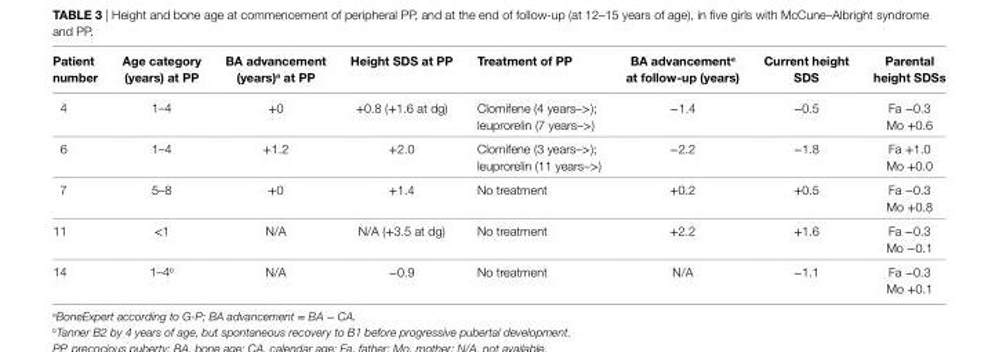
<table><thead><tr><td>Patient number</td><td>age category (years) at PP</td><td>Ba advancement (years)<sup>a</sup> at PP</td><td>height sDs at PP</td><td>Treatment of PP</td><td>Ba advancement<sup>a</sup> at follow-up (years)</td><td>current height sDs</td><td>Parental height sDss</td></tr></thead><tbody><tr><td>4</td><td>1–4</td><td>+0</td><td>+0.8 (+1.6 at dg)</td><td>Clomifene (4 years–&gt;); leuprorelin (7 years–&gt;)</td><td>−1.4</td><td>−0.5</td><td>Fa −0.3 Mo +0.6</td></tr><tr><td>6</td><td>1–4</td><td>+1.2</td><td>+2.0</td><td>Clomifene (3 years–&gt;); leuprorelin (11 years–&gt;)</td><td>−2.2</td><td>−1.8</td><td>Fa +1.0 Mo +0.0</td></tr><tr><td>7</td><td>5–8</td><td>+0</td><td>+1.4</td><td>No treatment</td><td>+0.2</td><td>+0.5</td><td>Fa −0.3 Mo +0.8</td></tr><tr><td>11</td><td>&lt;1</td><td>N/A</td><td>N/A (+3.5 at dg)</td><td>No treatment</td><td>+2.2</td><td>+1.6</td><td>Fa −0.3 Mo −0.1</td></tr><tr><td>14</td><td>1–4<sup>b</sup></td><td>N/A</td><td>−0.9</td><td>No treatment</td><td>N/A</td><td>−1.1</td><td>Fa −0.3 Mo +0.1</td></tr></tbody></table>